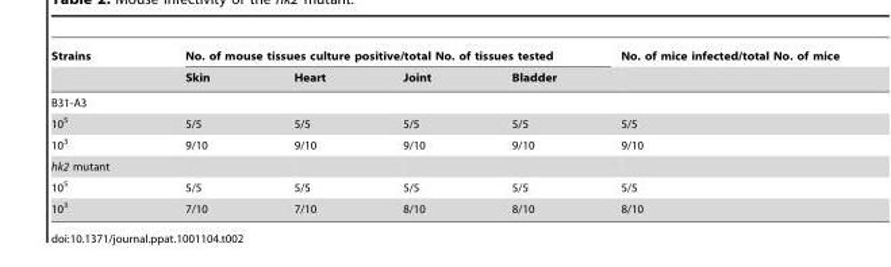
<table><thead><tr><td rowspan="2">Strains</td><td colspan="4">No. of mouse tissues culture positive/total No. of tissues tested</td><td rowspan="2">No. of mice infected/total No. of mice</td></tr><tr><td>Skin</td><td>Heart</td><td>Joint</td><td>Bladder</td></tr></thead><tbody><tr><td colspan="6">B31-A3</td></tr><tr><td>10<sup>5</sup></td><td>5/5</td><td>5/5</td><td>5/5</td><td>5/5</td><td>5/5</td></tr><tr><td>10<sup>3</sup></td><td>9/10</td><td>9/10</td><td>9/10</td><td>9/10</td><td>9/10</td></tr><tr><td colspan="6">hk2 mutant</td></tr><tr><td>10<sup>5</sup></td><td>5/5</td><td>5/5</td><td>5/5</td><td>5/5</td><td>5/5</td></tr><tr><td>10<sup>3</sup></td><td>7/10</td><td>7/10</td><td>8/10</td><td>8/10</td><td>8/10</td></tr></tbody></table>